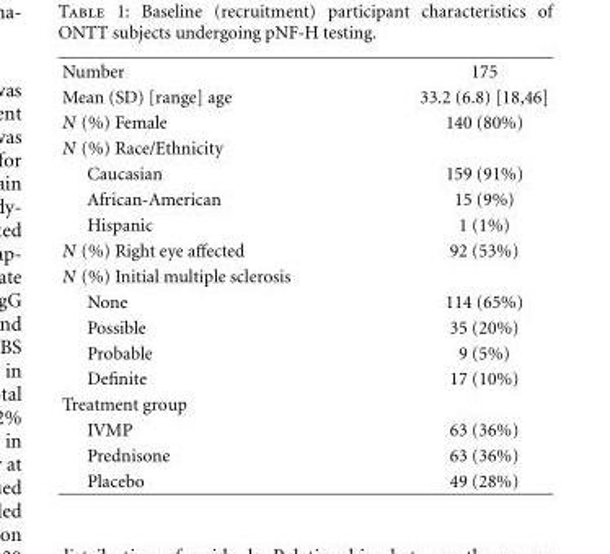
<table><tbody><tr><td>Number</td><td>175</td></tr><tr><td>Mean (SD) [range] age</td><td>33.2 (6.8) [18,46]</td></tr><tr><td>N (%) Female</td><td>140 (80%)</td></tr><tr><td colspan="2">N (%) Race/Ethnicity</td></tr><tr><td>Caucasian</td><td>159 (91%)</td></tr><tr><td>African-American</td><td>15 (9%)</td></tr><tr><td>Hispanic</td><td>1 (1%)</td></tr><tr><td>N (%) Right eye affected</td><td>92 (53%)</td></tr><tr><td colspan="2">N (%) Initial multiple sclerosis</td></tr><tr><td>None</td><td>114 (65%)</td></tr><tr><td>Possible</td><td>35 (20%)</td></tr><tr><td>Probable</td><td>9 (5%)</td></tr><tr><td>Definite</td><td>17 (10%)</td></tr><tr><td colspan="2">Treatment group</td></tr><tr><td>IVMP</td><td>63 (36%)</td></tr><tr><td>Prednisone</td><td>63 (36%)</td></tr><tr><td>Placebo</td><td>49 (28%)</td></tr></tbody></table>